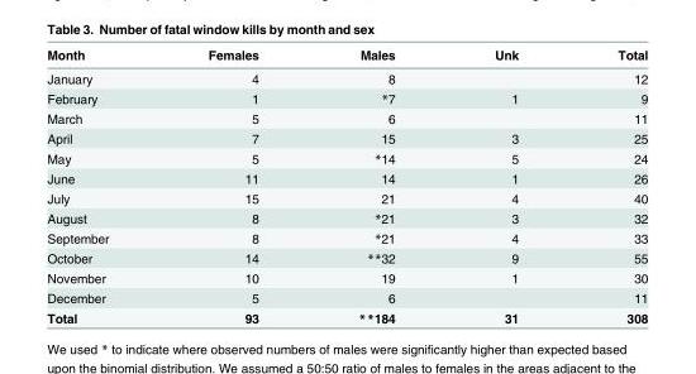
<table><thead><tr><td>Month</td><td>Females</td><td>Males</td><td>Unk</td><td>Total</td></tr></thead><tbody><tr><td>January</td><td>4</td><td>8</td><td></td><td>12</td></tr><tr><td>February</td><td>1</td><td>*7</td><td>1</td><td>9</td></tr><tr><td>March</td><td>5</td><td>6</td><td></td><td>11</td></tr><tr><td>April</td><td>7</td><td>15</td><td>3</td><td>25</td></tr><tr><td>May</td><td>5</td><td>*14</td><td>5</td><td>24</td></tr><tr><td>June</td><td>11</td><td>14</td><td>1</td><td>26</td></tr><tr><td>July</td><td>15</td><td>21</td><td>4</td><td>40</td></tr><tr><td>August</td><td>8</td><td>*21</td><td>3</td><td>32</td></tr><tr><td>September</td><td>8</td><td>*21</td><td>4</td><td>33</td></tr><tr><td>October</td><td>14</td><td>**32</td><td>9</td><td>55</td></tr><tr><td>November</td><td>10</td><td>19</td><td>1</td><td>30</td></tr><tr><td>December</td><td>5</td><td>6</td><td></td><td>11</td></tr><tr><td>Total</td><td>93</td><td>**184</td><td>31</td><td>308</td></tr></tbody></table>